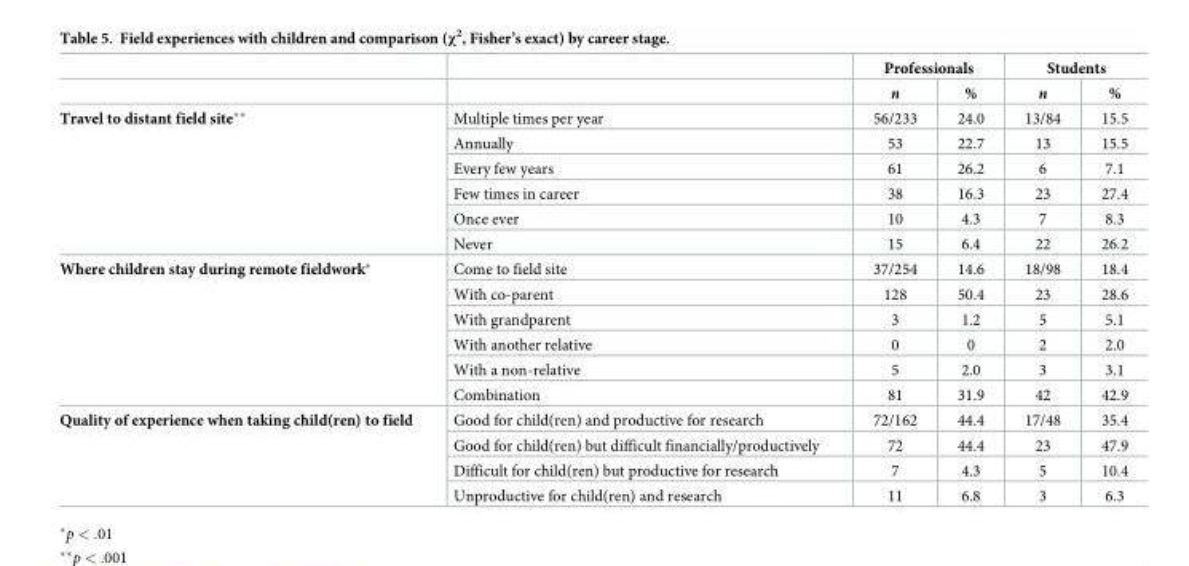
<table><thead><tr><td rowspan="2"></td><td rowspan="2"></td><td colspan="2">Professionals</td><td colspan="2">Students</td></tr><tr><td>n</td><td>%</td><td>n</td><td>%</td></tr></thead><tbody><tr><td rowspan="6">Travel to distant field site**</td><td>Multiple times per year</td><td>56/233</td><td>24.0</td><td>13/84</td><td>15.5</td></tr><tr><td>Annually</td><td>53</td><td>22.7</td><td>13</td><td>15.5</td></tr><tr><td>Every few years</td><td>61</td><td>26.2</td><td>6</td><td>7.1</td></tr><tr><td>Few times in career</td><td>38</td><td>16.3</td><td>23</td><td>27.4</td></tr><tr><td>Once ever</td><td>10</td><td>4.3</td><td>7</td><td>8.3</td></tr><tr><td>Never</td><td>15</td><td>6.4</td><td>22</td><td>26.2</td></tr><tr><td rowspan="6">Where children stay during remote fieldwork*</td><td>Come to field site</td><td>37/254</td><td>14.6</td><td>18/98</td><td>18.4</td></tr><tr><td>With co-parent</td><td>128</td><td>50.4</td><td>23</td><td>28.6</td></tr><tr><td>With grandparent</td><td>3</td><td>1.2</td><td>5</td><td>5.1</td></tr><tr><td>With another relative</td><td>0</td><td>0</td><td>2</td><td>2.0</td></tr><tr><td>With a non-relative</td><td>5</td><td>2.0</td><td>3</td><td>3.1</td></tr><tr><td>Combination</td><td>81</td><td>31.9</td><td>42</td><td>42.9</td></tr><tr><td rowspan="4">Quality of experience when taking child(ren) to field</td><td>Good for child(ren) and productive for research</td><td>72/162</td><td>44.4</td><td>17/48</td><td>35.4</td></tr><tr><td>Good for child(ren) but difficult financially/productively</td><td>72</td><td>44.4</td><td>23</td><td>47.9</td></tr><tr><td>Difficult for child(ren) but productive for research</td><td>7</td><td>4.3</td><td>5</td><td>10.4</td></tr><tr><td>Unproductive for child(ren) and research</td><td>11</td><td>6.8</td><td>3</td><td>6.3</td></tr></tbody></table>